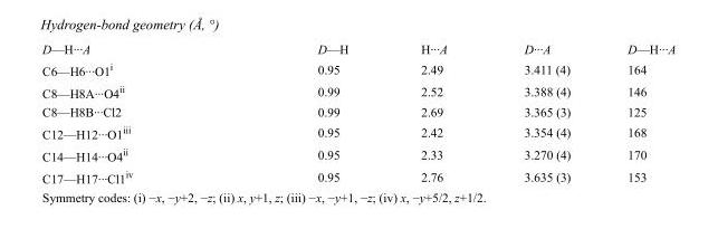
<table><tbody><tr><td>D—H···A</td><td>D—H</td><td>H···A</td><td>D···A</td><td>D—H···A</td></tr><tr><td>C6—H6···O1<sup>i</sup></td><td>0.95</td><td>2.49</td><td>3.411 (4)</td><td>164</td></tr><tr><td>C8—H8A···O4<sup>ii</sup></td><td>0.99</td><td>2.52</td><td>3.388 (4)</td><td>146</td></tr><tr><td>C8—H8B···Cl2</td><td>0.99</td><td>2.69</td><td>3.365 (3)</td><td>125</td></tr><tr><td>C12—H12···O1<sup>iii</sup></td><td>0.95</td><td>2.42</td><td>3.354 (4)</td><td>168</td></tr><tr><td>C14—H14···O4<sup>ii</sup></td><td>0.95</td><td>2.33</td><td>3.270 (4)</td><td>170</td></tr><tr><td>C17—H17···Cl1<sup>iv</sup></td><td>0.95</td><td>2.76</td><td>3.635 (3)</td><td>153</td></tr></tbody></table>